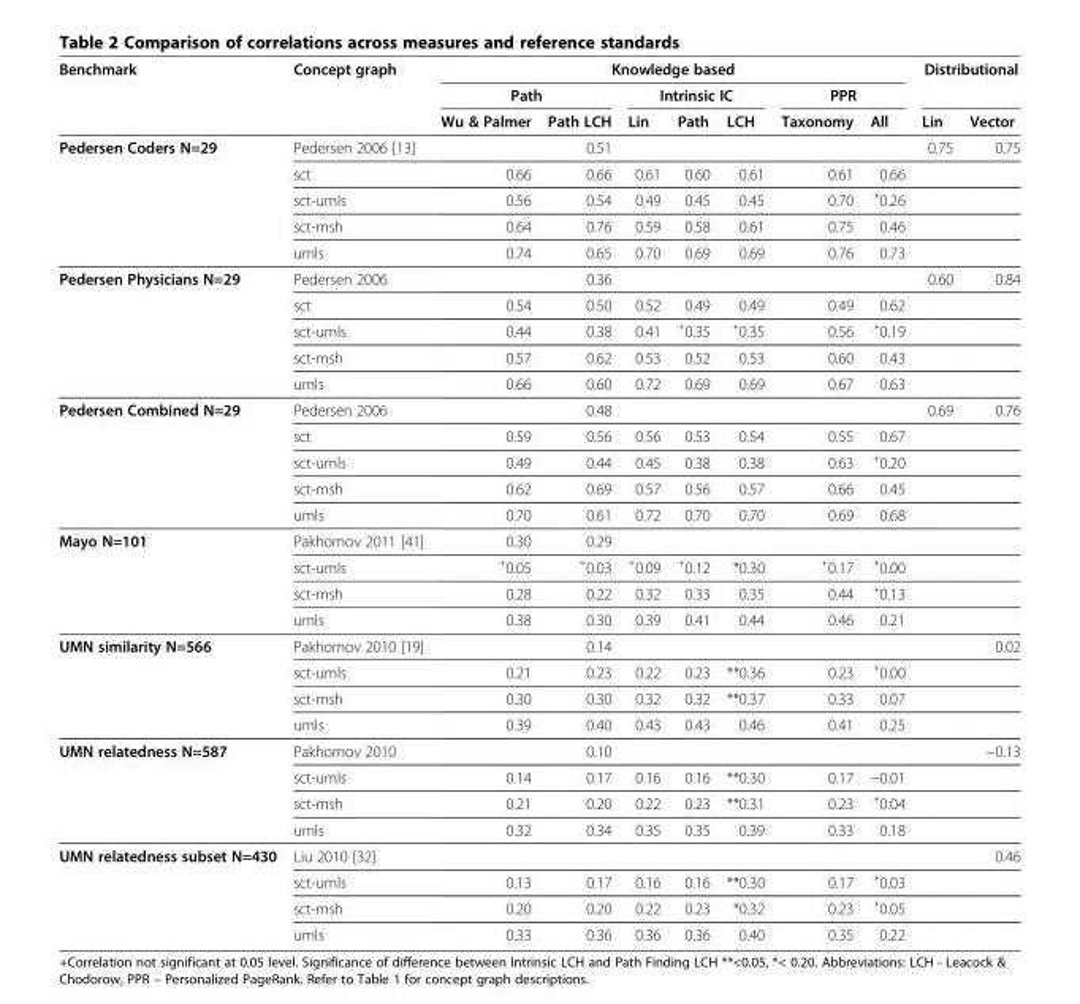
<table><thead><tr><td rowspan="3">Benchmark</td><td rowspan="3">Concept graph</td><td colspan="7">Knowledge based</td><td colspan="2">Distributional</td></tr><tr><td colspan="2">Path</td><td colspan="3">Intrinsic IC</td><td colspan="2">PPR</td><td rowspan="2">Lin</td><td rowspan="2">Vector</td></tr><tr><td>Wu &amp; Palmer</td><td>Path LCH</td><td>Lin</td><td>Path</td><td>LCH</td><td>Taxonomy</td><td>All</td></tr></thead><tbody><tr><td rowspan="5">Pedersen Coders N=29</td><td>Pedersen 2006 [13]</td><td></td><td>0.51</td><td></td><td></td><td></td><td></td><td></td><td>0.75</td><td>0.75</td></tr><tr><td>sct</td><td>0.66</td><td>0.66</td><td>0.61</td><td>0.60</td><td>0.61</td><td>0.61</td><td>0.66</td><td></td><td></td></tr><tr><td>sct-umls</td><td>0.56</td><td>0.54</td><td>0.49</td><td>0.45</td><td>0.45</td><td>0.70</td><td><sup>+</sup>0.26</td><td></td><td></td></tr><tr><td>sct-msh</td><td>0.64</td><td>0.76</td><td>0.59</td><td>0.58</td><td>0.61</td><td>0.75</td><td>0.46</td><td></td><td></td></tr><tr><td>umls</td><td>0.74</td><td>0.65</td><td>0.70</td><td>0.69</td><td>0.69</td><td>0.76</td><td>0.73</td><td></td><td></td></tr><tr><td rowspan="5">Pedersen Physicians N=29</td><td>Pedersen 2006</td><td></td><td>0.36</td><td></td><td></td><td></td><td></td><td></td><td>0.60</td><td>0.84</td></tr><tr><td>sct</td><td>0.54</td><td>0.50</td><td>0.52</td><td>0.49</td><td>0.49</td><td>0.49</td><td>0.62</td><td></td><td></td></tr><tr><td>sct-umls</td><td>0.44</td><td>0.38</td><td>0.41</td><td><sup>+</sup>0.35</td><td><sup>+</sup>0.35</td><td>0.56</td><td><sup>+</sup>0.19</td><td></td><td></td></tr><tr><td>sct-msh</td><td>0.57</td><td>0.62</td><td>0.53</td><td>0.52</td><td>0.53</td><td>0.60</td><td>0.43</td><td></td><td></td></tr><tr><td>umls</td><td>0.66</td><td>0.60</td><td>0.72</td><td>0.69</td><td>0.69</td><td>0.67</td><td>0.63</td><td></td><td></td></tr><tr><td rowspan="5">Pedersen Combined N=29</td><td>Pedersen 2006</td><td></td><td>0.48</td><td></td><td></td><td></td><td></td><td></td><td>0.69</td><td>0.76</td></tr><tr><td>sct</td><td>0.59</td><td>0.56</td><td>0.56</td><td>0.53</td><td>0.54</td><td>0.55</td><td>0.67</td><td></td><td></td></tr><tr><td>sct-umls</td><td>0.49</td><td>0.44</td><td>0.45</td><td>0.38</td><td>0.38</td><td>0.63</td><td><sup>+</sup>0.20</td><td></td><td></td></tr><tr><td>sct-msh</td><td>0.62</td><td>0.69</td><td>0.57</td><td>0.56</td><td>0.57</td><td>0.66</td><td>0.45</td><td></td><td></td></tr><tr><td>umls</td><td>0.70</td><td>0.61</td><td>0.72</td><td>0.70</td><td>0.70</td><td>0.69</td><td>0.68</td><td></td><td></td></tr><tr><td rowspan="4">Mayo N=101</td><td>Pakhomov 2011 [41]</td><td>0.30</td><td>0.29</td><td></td><td></td><td></td><td></td><td></td><td></td><td></td></tr><tr><td>sct-umls</td><td><sup>+</sup>0.05</td><td><sup>+</sup>0.03</td><td><sup>+</sup>0.09</td><td><sup>+</sup>0.12</td><td>*0.30</td><td><sup>+</sup>0.17</td><td><sup>+</sup>0.00</td><td></td><td></td></tr><tr><td>sct-msh</td><td>0.28</td><td>0.22</td><td>0.32</td><td>0.33</td><td>0.35</td><td>0.44</td><td><sup>+</sup>0.13</td><td></td><td></td></tr><tr><td>umls</td><td>0.38</td><td>0.30</td><td>0.39</td><td>0.41</td><td>0.44</td><td>0.46</td><td>0.21</td><td></td><td></td></tr><tr><td rowspan="4">UMN similarity N=566</td><td>Pakhomov 2010 [19]</td><td></td><td>0.14</td><td></td><td></td><td></td><td></td><td></td><td></td><td>0.02</td></tr><tr><td>sct-umls</td><td>0.21</td><td>0.23</td><td>0.22</td><td>0.23</td><td>**0.36</td><td>0.23</td><td><sup>+</sup>0.00</td><td></td><td></td></tr><tr><td>sct-msh</td><td>0.30</td><td>0.30</td><td>0.32</td><td>0.32</td><td>**0.37</td><td>0.33</td><td>0.07</td><td></td><td></td></tr><tr><td>umls</td><td>0.39</td><td>0.40</td><td>0.43</td><td>0.43</td><td>0.46</td><td>0.41</td><td>0.25</td><td></td><td></td></tr><tr><td rowspan="4">UMN relatedness N=587</td><td>Pakhomov 2010</td><td></td><td>0.10</td><td></td><td></td><td></td><td></td><td></td><td></td><td>−0.13</td></tr><tr><td>sct-umls</td><td>0.14</td><td>0.17</td><td>0.16</td><td>0.16</td><td>**0.30</td><td>0.17</td><td>−0.01</td><td></td><td></td></tr><tr><td>sct-msh</td><td>0.21</td><td>0.20</td><td>0.22</td><td>0.23</td><td>**0.31</td><td>0.23</td><td><sup>+</sup>0.04</td><td></td><td></td></tr><tr><td>umls</td><td>0.32</td><td>0.34</td><td>0.35</td><td>0.35</td><td>0.39</td><td>0.33</td><td>0.18</td><td></td><td></td></tr><tr><td rowspan="4">UMN relatedness subset N=430</td><td>Liu 2010 [32]</td><td></td><td></td><td></td><td></td><td></td><td></td><td></td><td></td><td>0.46</td></tr><tr><td>sct-umls</td><td>0.13</td><td>0.17</td><td>0.16</td><td>0.16</td><td>**0.30</td><td>0.17</td><td><sup>+</sup>0.03</td><td></td><td></td></tr><tr><td>sct-msh</td><td>0.20</td><td>0.20</td><td>0.22</td><td>0.23</td><td>*0.32</td><td>0.23</td><td><sup>+</sup>0.05</td><td></td><td></td></tr><tr><td>umls</td><td>0.33</td><td>0.36</td><td>0.36</td><td>0.36</td><td>0.40</td><td>0.35</td><td>0.22</td><td></td><td></td></tr></tbody></table>